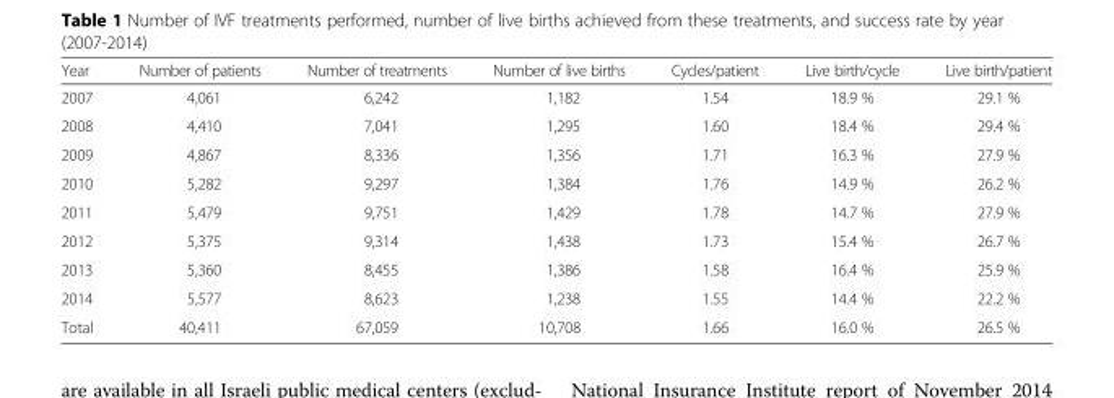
<table><thead><tr><td>Year</td><td>Number of patients</td><td>Number of treatments</td><td>Number of live births</td><td>Cycles/patient</td><td>Live birth/cycle</td><td>Live birth/patient</td></tr></thead><tbody><tr><td>2007</td><td>4,061</td><td>6,242</td><td>1,182</td><td>1.54</td><td>18.9 %</td><td>29.1 %</td></tr><tr><td>2008</td><td>4,410</td><td>7,041</td><td>1,295</td><td>1.60</td><td>18.4 %</td><td>29.4 %</td></tr><tr><td>2009</td><td>4,867</td><td>8,336</td><td>1,356</td><td>1.71</td><td>16.3 %</td><td>27.9 %</td></tr><tr><td>2010</td><td>5,282</td><td>9,297</td><td>1,384</td><td>1.76</td><td>14.9 %</td><td>26.2 %</td></tr><tr><td>2011</td><td>5,479</td><td>9,751</td><td>1,429</td><td>1.78</td><td>14.7 %</td><td>27.9 %</td></tr><tr><td>2012</td><td>5,375</td><td>9,314</td><td>1,438</td><td>1.73</td><td>15.4 %</td><td>26.7 %</td></tr><tr><td>2013</td><td>5,360</td><td>8,455</td><td>1,386</td><td>1.58</td><td>16.4 %</td><td>25.9 %</td></tr><tr><td>2014</td><td>5,577</td><td>8,623</td><td>1,238</td><td>1.55</td><td>14.4 %</td><td>22.2 %</td></tr><tr><td>Total</td><td>40,411</td><td>67,059</td><td>10,708</td><td>1.66</td><td>16.0 %</td><td>26.5 %</td></tr></tbody></table>